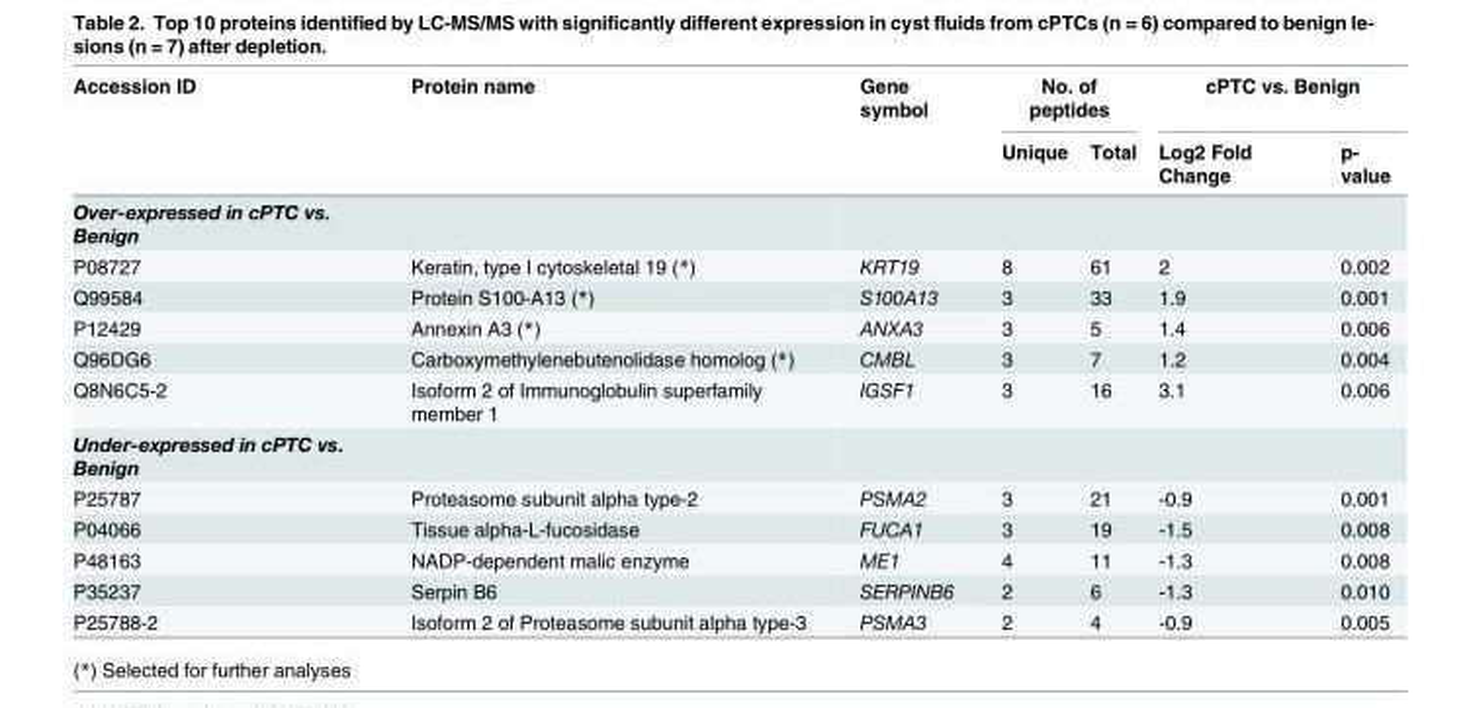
<table><thead><tr><td rowspan="2">Accession ID</td><td rowspan="2">Protein name</td><td rowspan="2">Gene symbol</td><td colspan="2">No. of peptides</td><td colspan="2">cPTC vs. Benign</td></tr><tr><td>Unique</td><td>Total</td><td>Log2 Fold Change</td><td>p- value</td></tr></thead><tbody><tr><td colspan="7">Over-expressed in cPTC vs. Benign</td></tr><tr><td>P08727</td><td>Keratin, type I cytoskeletal 19 (*)</td><td>KRT19</td><td>8</td><td>61</td><td>2</td><td>0.002</td></tr><tr><td>Q99584</td><td>Protein S100-A13 (*)</td><td>S100A13</td><td>3</td><td>33</td><td>1.9</td><td>0.001</td></tr><tr><td>P12429</td><td>Annexin A3 (*)</td><td>ANXA3</td><td>3</td><td>5</td><td>1.4</td><td>0.006</td></tr><tr><td>Q96DG6</td><td>Carboxymethylenebutenolidase homolog (*)</td><td>CMBL</td><td>3</td><td>7</td><td>1.2</td><td>0.004</td></tr><tr><td>Q8N6C5-2</td><td>Isoform 2 of Immunoglobulin superfamily member 1</td><td>IGSF1</td><td>3</td><td>16</td><td>3.1</td><td>0.006</td></tr><tr><td colspan="7">Under-expressed in cPTC vs. Benign</td></tr><tr><td>P25787</td><td>Proteasome subunit alpha type-2</td><td>PSMA2</td><td>3</td><td>21</td><td>-0.9</td><td>0.001</td></tr><tr><td>P04066</td><td>Tissue alpha-L-fucosidase</td><td>FUCA1</td><td>3</td><td>19</td><td>-1.5</td><td>0.008</td></tr><tr><td>P48163</td><td>NADP-dependent malic enzyme</td><td>ME1</td><td>4</td><td>11</td><td>-1.3</td><td>0.008</td></tr><tr><td>P35237</td><td>Serpin B6</td><td>SERPINB6</td><td>2</td><td>6</td><td>-1.3</td><td>0.010</td></tr><tr><td>P25788-2</td><td>Isoform 2 of Proteasome subunit alpha type-3</td><td>PSMA3</td><td>2</td><td>4</td><td>-0.9</td><td>0.005</td></tr></tbody></table>